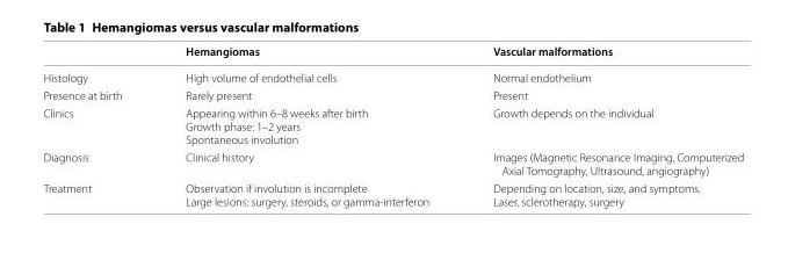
<table><thead><tr><td></td><td>Hemangiomas</td><td>Vascular malformations</td></tr></thead><tbody><tr><td>Histology</td><td>High volume of endothelial cells</td><td>Normal endothelium</td></tr><tr><td>Presence at birth</td><td>Rarely present</td><td>Present</td></tr><tr><td>Clinics</td><td>Appearing within 6–8 weeks after birth Growth phase: 1–2 years Spontaneous involution</td><td>Growth depends on the individual</td></tr><tr><td>Diagnosis</td><td>Clinical history</td><td>Images (Magnetic Resonance Imaging, Computerized Axial Tomography, Ultrasound, angiography)</td></tr><tr><td>Treatment</td><td>Observation if involution is incomplete Large lesions: surgery, steroids, or gamma‑interferon</td><td>Depending on location, size, and symptoms. Laser, sclerotherapy, surgery</td></tr></tbody></table>